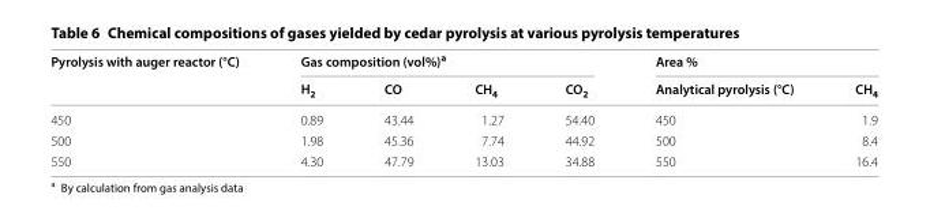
<table><thead><tr><td rowspan="2">Pyrolysis with auger reactor (°C)</td><td colspan="4">Gas composition (vol%)<sup>a</sup></td><td colspan="2">Area %</td></tr><tr><td>H<sub>2</sub></td><td>CO</td><td>CH<sub>4</sub></td><td>CO<sub>2</sub></td><td>Analytical pyrolysis (°C)</td><td>CH<sub>4</sub></td></tr></thead><tbody><tr><td>450</td><td>0.89</td><td>43.44</td><td>1.27</td><td>54.40</td><td>450</td><td>1.9</td></tr><tr><td>500</td><td>1.98</td><td>45.36</td><td>7.74</td><td>44.92</td><td>500</td><td>8.4</td></tr><tr><td>550</td><td>4.30</td><td>47.79</td><td>13.03</td><td>34.88</td><td>550</td><td>16.4</td></tr></tbody></table>